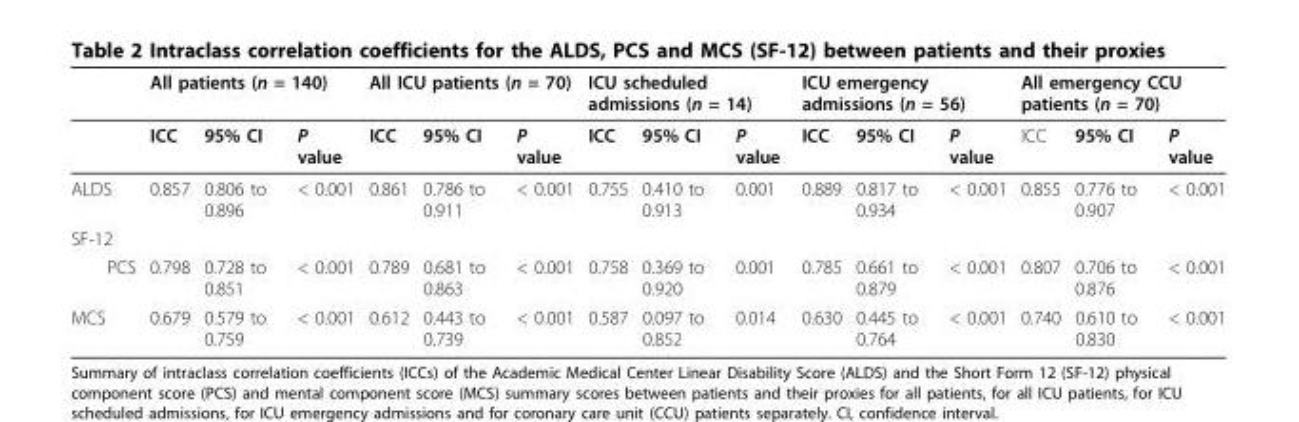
<table><thead><tr><td rowspan="2"></td><td colspan="3">All patients (n = 140)</td><td colspan="3">All ICU patients (n = 70)</td><td colspan="3">ICU scheduled admissions (n = 14)</td><td colspan="3">ICU emergency admissions (n = 56)</td><td colspan="3">All emergency CCU patients (n = 70)</td></tr><tr><td>ICC</td><td>95% CI</td><td>P value</td><td>ICC</td><td>95% CI</td><td>P value</td><td>ICC</td><td>95% CI</td><td>P value</td><td>ICC</td><td>95% CI</td><td>P value</td><td>ICC</td><td>95% CI</td><td>P value</td></tr></thead><tbody><tr><td>ALDS</td><td>0.857</td><td>0.806 to 0.896</td><td>&lt; 0.001</td><td>0.861</td><td>0.786 to 0.911</td><td>&lt; 0.001</td><td>0.755</td><td>0.410 to 0.913</td><td>0.001</td><td>0.889</td><td>0.817 to 0.934</td><td>&lt; 0.001</td><td>0.855</td><td>0.776 to 0.907</td><td>&lt; 0.001</td></tr><tr><td colspan="16">SF-12</td></tr><tr><td>PCS</td><td>0.798</td><td>0.728 to 0.851</td><td>&lt; 0.001</td><td>0.789</td><td>0.681 to 0.863</td><td>&lt; 0.001</td><td>0.758</td><td>0.369 to 0.920</td><td>0.001</td><td>0.785</td><td>0.661 to 0.879</td><td>&lt; 0.001</td><td>0.807</td><td>0.706 to 0.876</td><td>&lt; 0.001</td></tr><tr><td>MCS</td><td>0.679</td><td>0.579 to 0.759</td><td>&lt; 0.001</td><td>0.612</td><td>0.443 to 0.739</td><td>&lt; 0.001</td><td>0.587</td><td>0.097 to 0.852</td><td>0.014</td><td>0.630</td><td>0.445 to 0.764</td><td>&lt; 0.001</td><td>0.740</td><td>0.610 to 0.830</td><td>&lt; 0.001</td></tr></tbody></table>